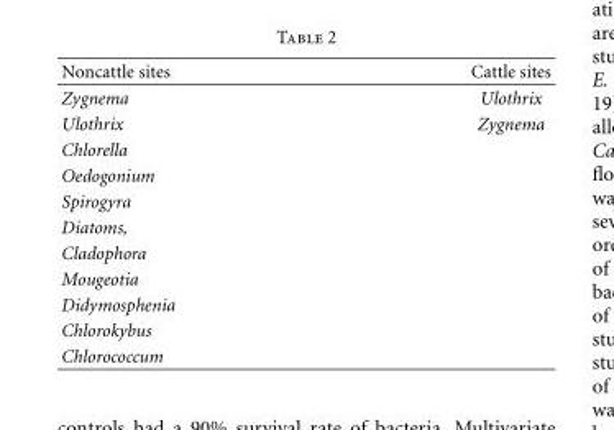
<table><thead><tr><td>Noncattle sites</td><td>Cattle sites</td></tr></thead><tbody><tr><td>Zygnema</td><td>Ulothrix</td></tr><tr><td>Ulothrix</td><td>Zygnema</td></tr><tr><td colspan="2">Chlorella</td></tr><tr><td colspan="2">Oedogonium</td></tr><tr><td colspan="2">Spirogyra</td></tr><tr><td colspan="2">Diatoms,</td></tr><tr><td colspan="2">Cladophora</td></tr><tr><td colspan="2">Mougeotia</td></tr><tr><td colspan="2">Didymosphenia</td></tr><tr><td colspan="2">Chlorokybus</td></tr><tr><td>Chlorococcum</td><td></td></tr></tbody></table>